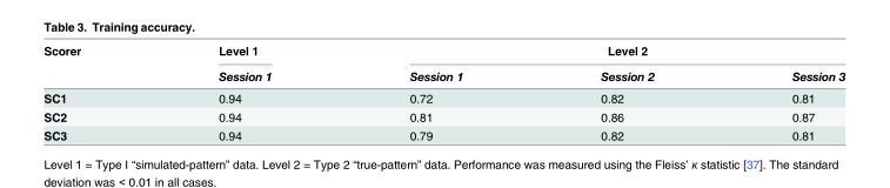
<table><thead><tr><td rowspan="2">Scorer</td><td rowspan="2">Level 1 Session 1</td><td colspan="3">Level 2</td></tr><tr><td>Session 1</td><td>Session 2</td><td>Session 3</td></tr></thead><tbody><tr><td>SC1</td><td>0.94</td><td>0.72</td><td>0.82</td><td>0.81</td></tr><tr><td>SC2</td><td>0.94</td><td>0.81</td><td>0.86</td><td>0.87</td></tr><tr><td>SC3</td><td>0.94</td><td>0.79</td><td>0.82</td><td>0.81</td></tr></tbody></table>